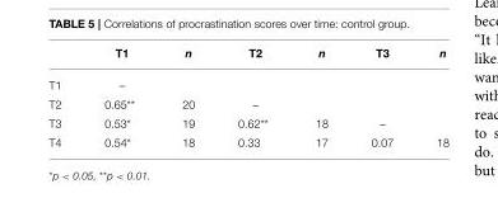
<table><thead><tr><td></td><td>T1</td><td>n</td><td>T2</td><td>n</td><td>T3</td><td>n</td></tr></thead><tbody><tr><td>T1</td><td>–</td><td></td><td></td><td></td><td></td><td></td></tr><tr><td>T2</td><td>0.65**</td><td>20</td><td>–</td><td></td><td></td><td></td></tr><tr><td>T3</td><td>0.53*</td><td>19</td><td>0.62**</td><td>18</td><td>–</td><td></td></tr><tr><td>T4</td><td>0.54*</td><td>18</td><td>0.33</td><td>17</td><td>0.07</td><td>18</td></tr></tbody></table>